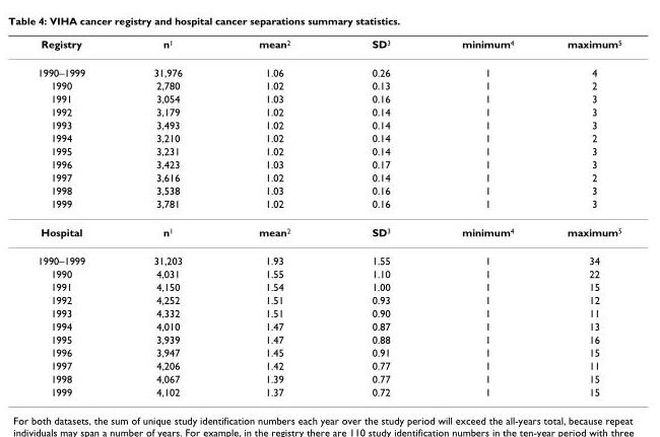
<table><thead><tr><td>Registry</td><td>n<sup>1</sup></td><td>mean<sup>2</sup></td><td>SD<sup>3</sup></td><td>minimum<sup>4</sup></td><td>maximum<sup>5</sup></td></tr></thead><tbody><tr><td>1990–1999</td><td>31,976</td><td>1.06</td><td>0.26</td><td>1</td><td>4</td></tr><tr><td>1990</td><td>2,780</td><td>1.02</td><td>0.13</td><td>1</td><td>2</td></tr><tr><td>1991</td><td>3,054</td><td>1.03</td><td>0.16</td><td>1</td><td>3</td></tr><tr><td>1992</td><td>3,179</td><td>1.02</td><td>0.14</td><td>1</td><td>3</td></tr><tr><td>1993</td><td>3,493</td><td>1.02</td><td>0.14</td><td>1</td><td>3</td></tr><tr><td>1994</td><td>3,210</td><td>1.02</td><td>0.14</td><td>1</td><td>2</td></tr><tr><td>1995</td><td>3,231</td><td>1.02</td><td>0.14</td><td>1</td><td>3</td></tr><tr><td>1996</td><td>3,423</td><td>1.03</td><td>0.17</td><td>1</td><td>3</td></tr><tr><td>1997</td><td>3,616</td><td>1.02</td><td>0.14</td><td>1</td><td>2</td></tr><tr><td>1998</td><td>3,538</td><td>1.03</td><td>0.16</td><td>1</td><td>3</td></tr><tr><td>1999</td><td>3,781</td><td>1.02</td><td>0.16</td><td>1</td><td>3</td></tr><tr><td>Hospital</td><td>n<sup>1</sup></td><td>mean<sup>2</sup></td><td>SD<sup>3</sup></td><td>minimum<sup>4</sup></td><td>maximum<sup>5</sup></td></tr><tr><td>1990–1999</td><td>31,203</td><td>1.93</td><td>1.55</td><td>1</td><td>34</td></tr><tr><td>1990</td><td>4,031</td><td>1.55</td><td>1.10</td><td>1</td><td>22</td></tr><tr><td>1991</td><td>4,150</td><td>1.54</td><td>1.00</td><td>1</td><td>15</td></tr><tr><td>1992</td><td>4,252</td><td>1.51</td><td>0.93</td><td>1</td><td>12</td></tr><tr><td>1993</td><td>4,332</td><td>1.51</td><td>0.90</td><td>1</td><td>11</td></tr><tr><td>1994</td><td>4,010</td><td>1.47</td><td>0.87</td><td>1</td><td>13</td></tr><tr><td>1995</td><td>3,939</td><td>1.47</td><td>0.88</td><td>1</td><td>16</td></tr><tr><td>1996</td><td>3,947</td><td>1.45</td><td>0.91</td><td>1</td><td>15</td></tr><tr><td>1997</td><td>4,206</td><td>1.42</td><td>0.77</td><td>1</td><td>11</td></tr><tr><td>1998</td><td>4,067</td><td>1.39</td><td>0.77</td><td>1</td><td>15</td></tr><tr><td>1999</td><td>4,102</td><td>1.37</td><td>0.72</td><td>1</td><td>15</td></tr></tbody></table>